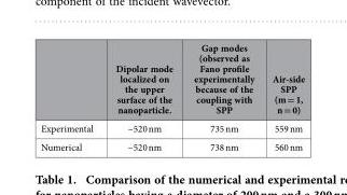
<table><thead><tr><td></td><td>Dipolar mode localized on the upper surface of the nanoparticle.</td><td>Gap modes (observed as Fano profile experimentally because of the coupling with SPP</td><td>Air-side SPP (m = 1, n = 0)</td></tr></thead><tbody><tr><td>Experimental</td><td>~520 nm</td><td>735 nm</td><td>559 nm</td></tr><tr><td>Numerical</td><td>~520 nm</td><td>738 nm</td><td>560 nm</td></tr></tbody></table>